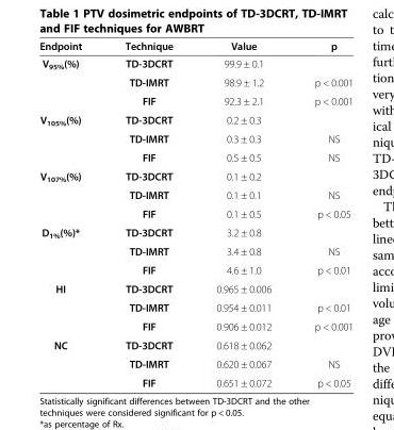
<table><thead><tr><td>Endpoint</td><td>Technique</td><td>Value</td><td>p</td></tr></thead><tbody><tr><td rowspan="3">V<sub>95%</sub>(%)</td><td>TD-3DCRT</td><td>99.9 ± 0.1</td><td></td></tr><tr><td>TD-IMRT</td><td>98.9 ± 1.2</td><td>p &lt; 0.001</td></tr><tr><td>FIF</td><td>92.3 ± 2.1</td><td>p &lt; 0.001</td></tr><tr><td rowspan="3">V<sub>105%</sub>(%)</td><td>TD-3DCRT</td><td>0.2 ± 0.3</td><td></td></tr><tr><td>TD-IMRT</td><td>0.3 ± 0.3</td><td>NS</td></tr><tr><td>FIF</td><td>0.5 ± 0.5</td><td>NS</td></tr><tr><td rowspan="3">V<sub>107%</sub>(%)</td><td>TD-3DCRT</td><td>0.1 ± 0.2</td><td></td></tr><tr><td>TD-IMRT</td><td>0.1 ± 0.1</td><td>NS</td></tr><tr><td>FIF</td><td>0.1 ± 0.5</td><td>p &lt; 0.05</td></tr><tr><td rowspan="3">D<sub>1%</sub>(%)*</td><td>TD-3DCRT</td><td>3.2 ± 0.8</td><td></td></tr><tr><td>TD-IMRT</td><td>3.4 ± 0.8</td><td>NS</td></tr><tr><td>FIF</td><td>4.6 ± 1.0</td><td>p &lt; 0.01</td></tr><tr><td rowspan="3">HI</td><td>TD-3DCRT</td><td>0.965 ± 0.006</td><td></td></tr><tr><td>TD-IMRT</td><td>0.954 ± 0.011</td><td>p &lt; 0.01</td></tr><tr><td>FIF</td><td>0.906 ± 0.012</td><td>p &lt; 0.001</td></tr><tr><td rowspan="3">NC</td><td>TD-3DCRT</td><td>0.618 ± 0.062</td><td></td></tr><tr><td>TD-IMRT</td><td>0.620 ± 0.067</td><td>NS</td></tr><tr><td>FIF</td><td>0.651 ± 0.072</td><td>p &lt; 0.05</td></tr></tbody></table>